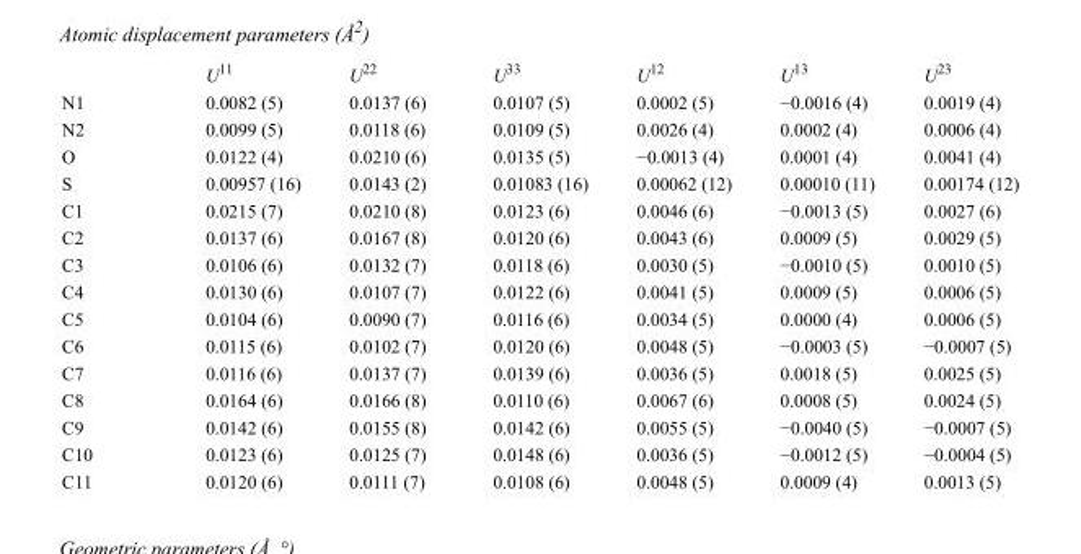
<table><thead><tr><td></td><td>U<sup>11</sup></td><td>U<sup>22</sup></td><td>U<sup>33</sup></td><td>U<sup>12</sup></td><td>U<sup>13</sup></td><td>U<sup>23</sup></td></tr></thead><tbody><tr><td>N1</td><td>0.0082 (5)</td><td>0.0137 (6)</td><td>0.0107 (5)</td><td>0.0002 (5)</td><td>−0.0016 (4)</td><td>0.0019 (4)</td></tr><tr><td>N2</td><td>0.0099 (5)</td><td>0.0118 (6)</td><td>0.0109 (5)</td><td>0.0026 (4)</td><td>0.0002 (4)</td><td>0.0006 (4)</td></tr><tr><td>O</td><td>0.0122 (4)</td><td>0.0210 (6)</td><td>0.0135 (5)</td><td>−0.0013 (4)</td><td>0.0001 (4)</td><td>0.0041 (4)</td></tr><tr><td>S</td><td>0.00957 (16)</td><td>0.0143 (2)</td><td>0.01083 (16)</td><td>0.00062 (12)</td><td>0.00010 (11)</td><td>0.00174 (12)</td></tr><tr><td>C1</td><td>0.0215 (7)</td><td>0.0210 (8)</td><td>0.0123 (6)</td><td>0.0046 (6)</td><td>−0.0013 (5)</td><td>0.0027 (6)</td></tr><tr><td>C2</td><td>0.0137 (6)</td><td>0.0167 (8)</td><td>0.0120 (6)</td><td>0.0043 (6)</td><td>0.0009 (5)</td><td>0.0029 (5)</td></tr><tr><td>C3</td><td>0.0106 (6)</td><td>0.0132 (7)</td><td>0.0118 (6)</td><td>0.0030 (5)</td><td>−0.0010 (5)</td><td>0.0010 (5)</td></tr><tr><td>C4</td><td>0.0130 (6)</td><td>0.0107 (7)</td><td>0.0122 (6)</td><td>0.0041 (5)</td><td>0.0009 (5)</td><td>0.0006 (5)</td></tr><tr><td>C5</td><td>0.0104 (6)</td><td>0.0090 (7)</td><td>0.0116 (6)</td><td>0.0034 (5)</td><td>0.0000 (4)</td><td>0.0006 (5)</td></tr><tr><td>C6</td><td>0.0115 (6)</td><td>0.0102 (7)</td><td>0.0120 (6)</td><td>0.0048 (5)</td><td>−0.0003 (5)</td><td>−0.0007 (5)</td></tr><tr><td>C7</td><td>0.0116 (6)</td><td>0.0137 (7)</td><td>0.0139 (6)</td><td>0.0036 (5)</td><td>0.0018 (5)</td><td>0.0025 (5)</td></tr><tr><td>C8</td><td>0.0164 (6)</td><td>0.0166 (8)</td><td>0.0110 (6)</td><td>0.0067 (6)</td><td>0.0008 (5)</td><td>0.0024 (5)</td></tr><tr><td>C9</td><td>0.0142 (6)</td><td>0.0155 (8)</td><td>0.0142 (6)</td><td>0.0055 (5)</td><td>−0.0040 (5)</td><td>−0.0007 (5)</td></tr><tr><td>C10</td><td>0.0123 (6)</td><td>0.0125 (7)</td><td>0.0148 (6)</td><td>0.0036 (5)</td><td>−0.0012 (5)</td><td>−0.0004 (5)</td></tr><tr><td>C11</td><td>0.0120 (6)</td><td>0.0111 (7)</td><td>0.0108 (6)</td><td>0.0048 (5)</td><td>0.0009 (4)</td><td>0.0013 (5)</td></tr></tbody></table>